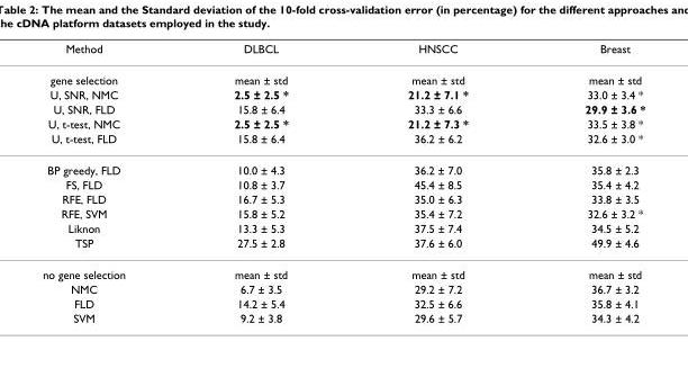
<table><thead><tr><td>Method</td><td>DLBCL</td><td>HNSCC</td><td>Breast</td></tr></thead><tbody><tr><td>gene selection</td><td>mean ± std</td><td>mean ± std</td><td>mean ± std</td></tr><tr><td>U, SNR, NMC</td><td>2.5 ± 2.5 *</td><td>21.2 ± 7.1 *</td><td>33.0 ± 3.4 *</td></tr><tr><td>U, SNR, FLD</td><td>15.8 ± 6.4</td><td>33.3 ± 6.6</td><td>29.9 ± 3.6 *</td></tr><tr><td>U, t-test, NMC</td><td>2.5 ± 2.5 *</td><td>21.2 ± 7.3 *</td><td>33.5 ± 3.8 *</td></tr><tr><td>U, t-test, FLD</td><td>15.8 ± 6.4</td><td>36.2 ± 6.2</td><td>32.6 ± 3.0 *</td></tr><tr><td>BP greedy, FLD</td><td>10.0 ± 4.3</td><td>36.2 ± 7.0</td><td>35.8 ± 2.3</td></tr><tr><td>FS, FLD</td><td>10.8 ± 3.7</td><td>45.4 ± 8.5</td><td>35.4 ± 4.2</td></tr><tr><td>RFE, FLD</td><td>16.7 ± 5.3</td><td>35.0 ± 6.3</td><td>33.8 ± 3.5</td></tr><tr><td>RFE, SVM</td><td>15.8 ± 5.2</td><td>35.4 ± 7.2</td><td>32.6 ± 3.2 *</td></tr><tr><td>Liknon</td><td>13.3 ± 5.3</td><td>37.5 ± 7.4</td><td>34.5 ± 5.2</td></tr><tr><td>TSP</td><td>27.5 ± 2.8</td><td>37.6 ± 6.0</td><td>49.9 ± 4.6</td></tr><tr><td>no gene selection</td><td>mean ± std</td><td>mean ± std</td><td>mean ± std</td></tr><tr><td>NMC</td><td>6.7 ± 3.5</td><td>29.2 ± 7.2</td><td>36.7 ± 3.2</td></tr><tr><td>FLD</td><td>14.2 ± 5.4</td><td>32.5 ± 6.6</td><td>35.8 ± 4.1</td></tr><tr><td>SVM</td><td>9.2 ± 3.8</td><td>29.6 ± 5.7</td><td>34.3 ± 4.2</td></tr></tbody></table>